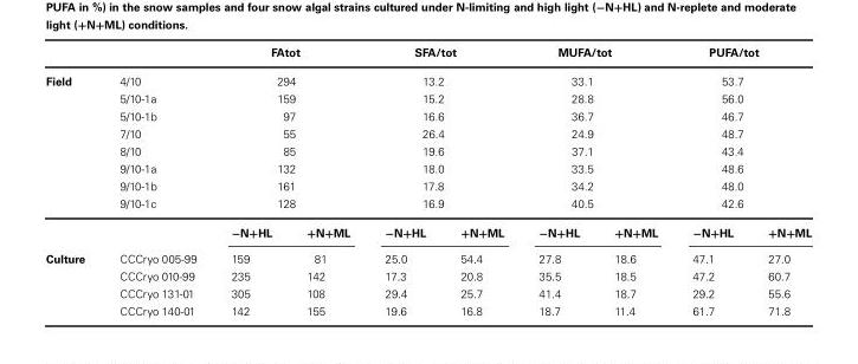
<table><thead><tr><td></td><td></td><td colspan="2">FAtot</td><td colspan="2">SFA/tot</td><td colspan="2">MUFA/tot</td><td colspan="2">PUFA/tot</td></tr></thead><tbody><tr><td rowspan="9">Field</td><td>4/10</td><td colspan="2">294</td><td colspan="2">13.2</td><td colspan="2">33.1</td><td colspan="2">53.7</td></tr><tr><td>5/10-1a</td><td colspan="2">159</td><td colspan="2">15.2</td><td colspan="2">28.8</td><td colspan="2">56.0</td></tr><tr><td>5/10-1b</td><td colspan="2">97</td><td colspan="2">16.6</td><td colspan="2">36.7</td><td colspan="2">46.7</td></tr><tr><td>7/10</td><td colspan="2">55</td><td colspan="2">26.4</td><td colspan="2">24.9</td><td colspan="2">48.7</td></tr><tr><td>8/10</td><td colspan="2">85</td><td colspan="2">19.6</td><td colspan="2">37.1</td><td colspan="2">43.4</td></tr><tr><td>9/10-1a</td><td colspan="2">132</td><td colspan="2">18.0</td><td colspan="2">33.5</td><td colspan="2">48.6</td></tr><tr><td>9/10-1b</td><td colspan="2">161</td><td colspan="2">17.8</td><td colspan="2">34.2</td><td colspan="2">48.0</td></tr><tr><td>9/10-1c</td><td colspan="2">128</td><td colspan="2">16.9</td><td colspan="2">40.5</td><td colspan="2">42.6</td></tr><tr><td></td><td>−N+HL</td><td>+N+ML</td><td>−N+HL</td><td>+N+ML</td><td>−N+HL</td><td>+N+ML</td><td>−N+HL</td><td>+N+ML</td></tr><tr><td rowspan="4">Culture</td><td>CCCryo 005-99</td><td>159</td><td>81</td><td>25.0</td><td>54.4</td><td>27.8</td><td>18.6</td><td>47.1</td><td>27.0</td></tr><tr><td>CCCryo 010-99</td><td>235</td><td>142</td><td>17.3</td><td>20.8</td><td>35.5</td><td>18.5</td><td>47.2</td><td>60.7</td></tr><tr><td>CCCryo 131-01</td><td>305</td><td>108</td><td>29.4</td><td>25.7</td><td>41.4</td><td>18.7</td><td>29.2</td><td>55.6</td></tr><tr><td>CCCryo 140-01</td><td>142</td><td>155</td><td>19.6</td><td>16.8</td><td>18.7</td><td>11.4</td><td>61.7</td><td>71.8</td></tr></tbody></table>